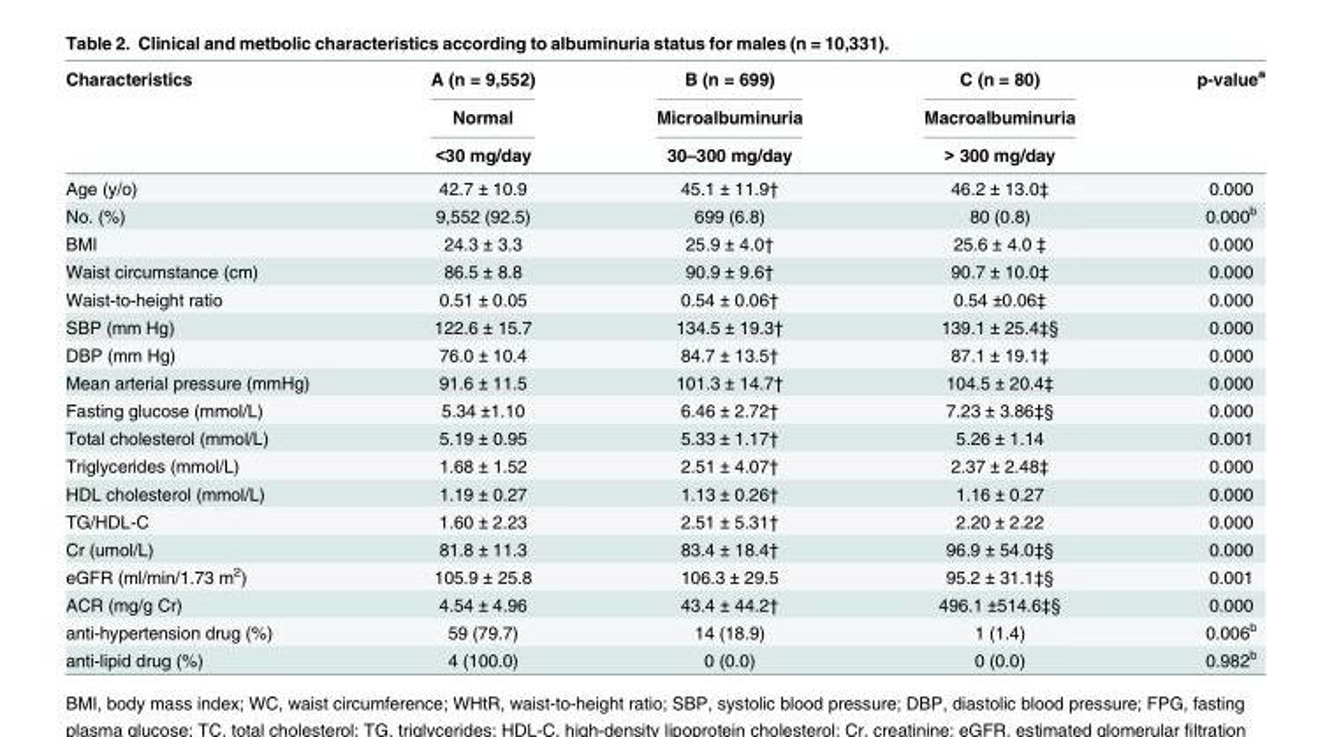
<table><thead><tr><td rowspan="3">Characteristics</td><td rowspan="3">A (n = 9,552) Normal &lt;30 mg/day</td><td rowspan="3">B (n = 699) Microalbuminuria 30–300 mg/day</td><td rowspan="3">C (n = 80) Macroalbuminuria &gt; 300 mg/day</td><td rowspan="3">p-value<sup>a</sup></td></tr><tr></tr><tr></tr></thead><tbody><tr><td>Age (y/o)</td><td>42.7 ± 10.9</td><td>45.1 ± 11.9†</td><td>46.2 ± 13.0‡</td><td>0.000</td></tr><tr><td>No. (%)</td><td>9,552 (92.5)</td><td>699 (6.8)</td><td>80 (0.8)</td><td>0.000<sup>b</sup></td></tr><tr><td>BMI</td><td>24.3 ± 3.3</td><td>25.9 ± 4.0†</td><td>25.6 ± 4.0 ‡</td><td>0.000</td></tr><tr><td>Waist circumstance (cm)</td><td>86.5 ± 8.8</td><td>90.9 ± 9.6†</td><td>90.7 ± 10.0‡</td><td>0.000</td></tr><tr><td>Waist-to-height ratio</td><td>0.51 ± 0.05</td><td>0.54 ± 0.06†</td><td>0.54 ±0.06‡</td><td>0.000</td></tr><tr><td>SBP (mm Hg)</td><td>122.6 ± 15.7</td><td>134.5 ± 19.3†</td><td>139.1 ± 25.4‡§</td><td>0.000</td></tr><tr><td>DBP (mm Hg)</td><td>76.0 ± 10.4</td><td>84.7 ± 13.5†</td><td>87.1 ± 19.1‡</td><td>0.000</td></tr><tr><td>Mean arterial pressure (mmHg)</td><td>91.6 ± 11.5</td><td>101.3 ± 14.7†</td><td>104.5 ± 20.4‡</td><td>0.000</td></tr><tr><td>Fasting glucose (mmol/L)</td><td>5.34 ±1.10</td><td>6.46 ± 2.72†</td><td>7.23 ± 3.86‡§</td><td>0.000</td></tr><tr><td>Total cholesterol (mmol/L)</td><td>5.19 ± 0.95</td><td>5.33 ± 1.17†</td><td>5.26 ± 1.14</td><td>0.001</td></tr><tr><td>Triglycerides (mmol/L)</td><td>1.68 ± 1.52</td><td>2.51 ± 4.07†</td><td>2.37 ± 2.48‡</td><td>0.000</td></tr><tr><td>HDL cholesterol (mmol/L)</td><td>1.19 ± 0.27</td><td>1.13 ± 0.26†</td><td>1.16 ± 0.27</td><td>0.000</td></tr><tr><td>TG/HDL-C</td><td>1.60 ± 2.23</td><td>2.51 ± 5.31†</td><td>2.20 ± 2.22</td><td>0.000</td></tr><tr><td>Cr (umol/L)</td><td>81.8 ± 11.3</td><td>83.4 ± 18.4†</td><td>96.9 ± 54.0‡§</td><td>0.000</td></tr><tr><td>eGFR (ml/min/1.73 m<sup>2</sup>)</td><td>105.9 ± 25.8</td><td>106.3 ± 29.5</td><td>95.2 ± 31.1‡§</td><td>0.001</td></tr><tr><td>ACR (mg/g Cr)</td><td>4.54 ± 4.96</td><td>43.4 ± 44.2†</td><td>496.1 ±514.6‡§</td><td>0.000</td></tr><tr><td>anti-hypertension drug (%)</td><td>59 (79.7)</td><td>14 (18.9)</td><td>1 (1.4)</td><td>0.006<sup>b</sup></td></tr><tr><td>anti-lipid drug (%)</td><td>4 (100.0)</td><td>0 (0.0)</td><td>0 (0.0)</td><td>0.982<sup>b</sup></td></tr></tbody></table>